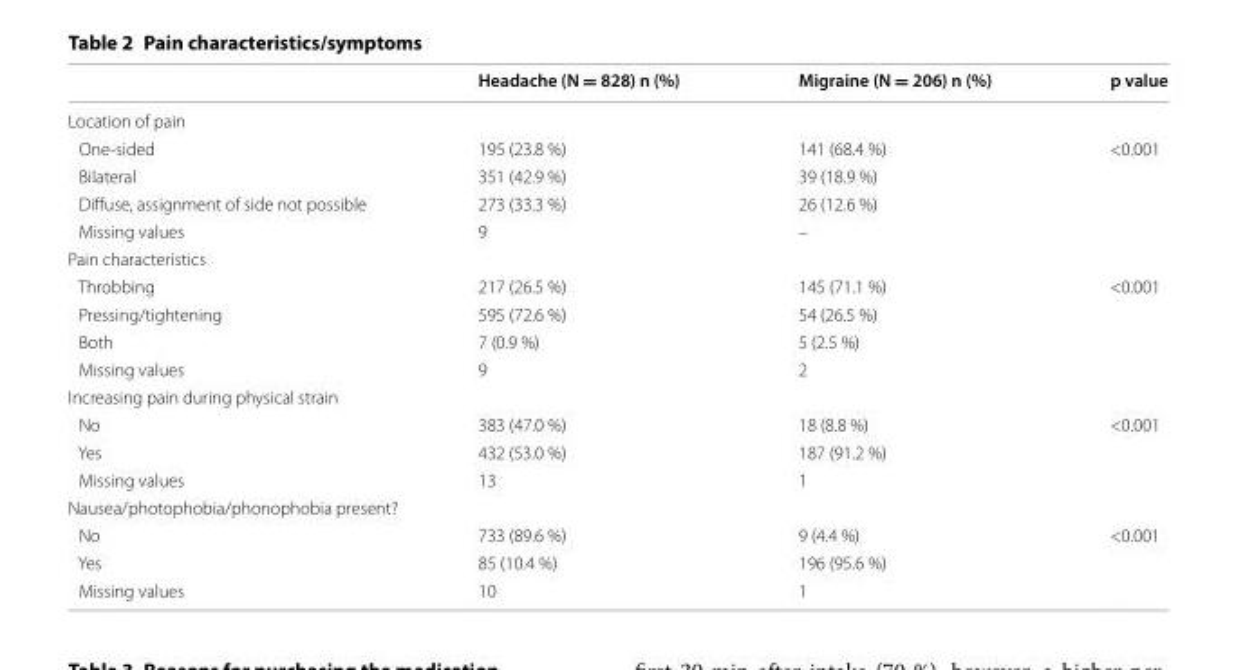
<table><thead><tr><td></td><td>Headache (N = 828) n (%)</td><td>Migraine (N = 206) n (%)</td><td>p value</td></tr></thead><tbody><tr><td colspan="4">Location of pain</td></tr><tr><td>One-sided</td><td>195 (23.8 %)</td><td>141 (68.4 %)</td><td>&lt;0.001</td></tr><tr><td>Bilateral</td><td>351 (42.9 %)</td><td>39 (18.9 %)</td><td></td></tr><tr><td>Diffuse, assignment of side not possible</td><td>273 (33.3 %)</td><td>26 (12.6 %)</td><td></td></tr><tr><td>Missing values</td><td>9</td><td>–</td><td></td></tr><tr><td colspan="4">Pain characteristics</td></tr><tr><td>Throbbing</td><td>217 (26.5 %)</td><td>145 (71.1 %)</td><td>&lt;0.001</td></tr><tr><td>Pressing/tightening</td><td>595 (72.6 %)</td><td>54 (26.5 %)</td><td></td></tr><tr><td>Both</td><td>7 (0.9 %)</td><td>5 (2.5 %)</td><td></td></tr><tr><td>Missing values</td><td>9</td><td>2</td><td></td></tr><tr><td colspan="4">Increasing pain during physical strain</td></tr><tr><td>No</td><td>383 (47.0 %)</td><td>18 (8.8 %)</td><td>&lt;0.001</td></tr><tr><td>Yes</td><td>432 (53.0 %)</td><td>187 (91.2 %)</td><td></td></tr><tr><td>Missing values</td><td>13</td><td>1</td><td></td></tr><tr><td colspan="4">Nausea/photophobia/phonophobia present?</td></tr><tr><td>No</td><td>733 (89.6 %)</td><td>9 (4.4 %)</td><td>&lt;0.001</td></tr><tr><td>Yes</td><td>85 (10.4 %)</td><td>196 (95.6 %)</td><td></td></tr><tr><td>Missing values</td><td>10</td><td>1</td><td></td></tr></tbody></table>